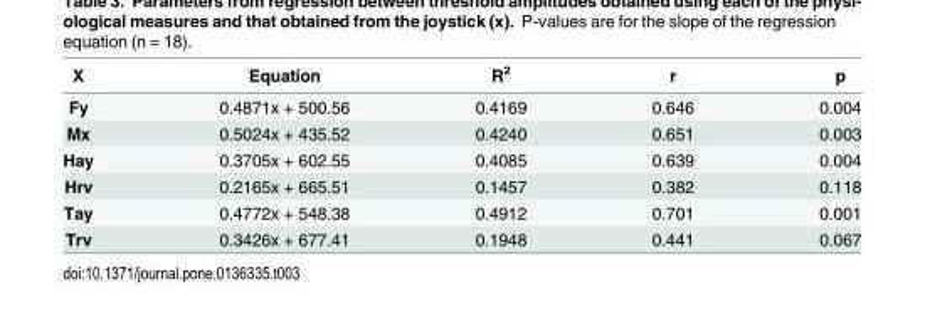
<table><thead><tr><td>X</td><td>Equation</td><td>R<sup>2</sup></td><td>r</td><td>p</td></tr></thead><tbody><tr><td>Fy</td><td>0.4871x + 500.56</td><td>0.4169</td><td>0.646</td><td>0.004</td></tr><tr><td>Mx</td><td>0.5024x + 435.52</td><td>0.4240</td><td>0.651</td><td>0.003</td></tr><tr><td>Hay</td><td>0.3705x + 602.55</td><td>0.4085</td><td>0.639</td><td>0.004</td></tr><tr><td>Hrv</td><td>0.2165x + 665.51</td><td>0.1457</td><td>0.382</td><td>0.118</td></tr><tr><td>Tay</td><td>0.4772x + 548.38</td><td>0.4912</td><td>0.701</td><td>0.001</td></tr><tr><td>Trv</td><td>0.3426x + 677.41</td><td>0.1948</td><td>0.441</td><td>0.067</td></tr></tbody></table>